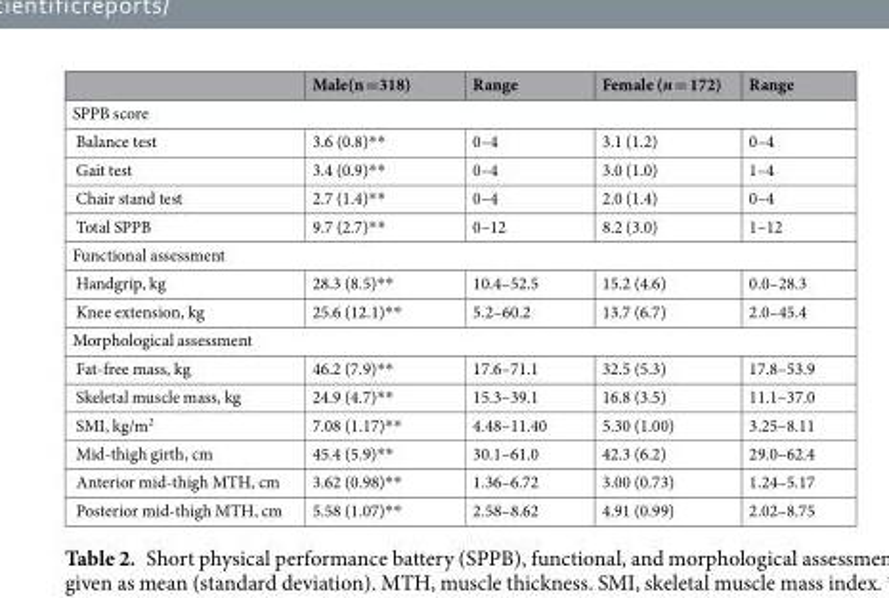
<table><thead><tr><td></td><td>Male(n =318)</td><td>Range</td><td>Female (n = 172)</td><td>Range</td></tr></thead><tbody><tr><td colspan="5">SPPB score</td></tr><tr><td>Balance test</td><td>3.6 (0.8)**</td><td>0–4</td><td>3.1 (1.2)</td><td>0–4</td></tr><tr><td>Gait test</td><td>3.4 (0.9)**</td><td>0–4</td><td>3.0 (1.0)</td><td>1–4</td></tr><tr><td>Chair stand test</td><td>2.7 (1.4)**</td><td>0–4</td><td>2.0 (1.4)</td><td>0–4</td></tr><tr><td>Total SPPB</td><td>9.7 (2.7)**</td><td>0–12</td><td>8.2 (3.0)</td><td>1–12</td></tr><tr><td colspan="5">Functional assessment</td></tr><tr><td>Handgrip, kg</td><td>28.3 (8.5)**</td><td>10.4–52.5</td><td>15.2 (4.6)</td><td>0.0–28.3</td></tr><tr><td>Knee extension, kg</td><td>25.6 (12.1)**</td><td>5.2–60.2</td><td>13.7 (6.7)</td><td>2.0–45.4</td></tr><tr><td colspan="5">Morphological assessment</td></tr><tr><td>Fat-free mass, kg</td><td>46.2 (7.9)**</td><td>17.6–71.1</td><td>32.5 (5.3)</td><td>17.8–53.9</td></tr><tr><td>Skeletal muscle mass, kg</td><td>24.9 (4.7)**</td><td>15.3–39.1</td><td>16.8 (3.5)</td><td>11.1–37.0</td></tr><tr><td>SMI, kg/m<sup>2</sup></td><td>7.08 (1.17)**</td><td>4.48–11.40</td><td>5.30 (1.00)</td><td>3.25–8.11</td></tr><tr><td>Mid-thigh girth, cm</td><td>45.4 (5.9)**</td><td>30.1–61.0</td><td>42.3 (6.2)</td><td>29.0–62.4</td></tr><tr><td>Anterior mid-thigh MTH, cm</td><td>3.62 (0.98)**</td><td>1.36–6.72</td><td>3.00 (0.73)</td><td>1.24–5.17</td></tr><tr><td>Posterior mid-thigh MTH, cm</td><td>5.58 (1.07)**</td><td>2.58–8.62</td><td>4.91 (0.99)</td><td>2.02–8.75</td></tr></tbody></table>